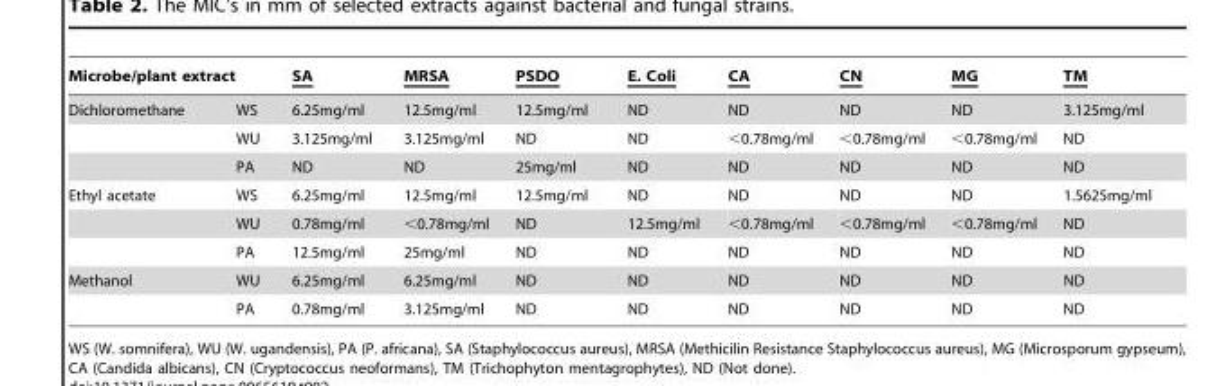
<table><thead><tr><td colspan="2">Microbe/plant extract</td><td rowspan="2">SA 6.25mg/ml</td><td rowspan="2">MRSA 12.5mg/ml</td><td rowspan="2">PSDO 12.5mg/ml</td><td rowspan="2">E. Coli ND</td><td rowspan="2">CA ND</td><td rowspan="2">CN ND</td><td rowspan="2">MG ND</td><td rowspan="2">TM 3.125mg/ml</td></tr><tr><td>Dichloromethane</td><td>WS</td></tr></thead><tbody><tr><td></td><td>WU</td><td>3.125mg/ml</td><td>3.125mg/ml</td><td>ND</td><td>ND</td><td>&lt;0.78mg/ml</td><td>&lt;0.78mg/ml</td><td>&lt;0.78mg/ml</td><td>ND</td></tr><tr><td></td><td>PA</td><td>ND</td><td>ND</td><td>25mg/ml</td><td>ND</td><td>ND</td><td>ND</td><td>ND</td><td>ND</td></tr><tr><td rowspan="3">Ethyl acetate</td><td>WS</td><td>6.25mg/ml</td><td>12.5mg/ml</td><td>12.5mg/ml</td><td>ND</td><td>ND</td><td>ND</td><td>ND</td><td>1.5625mg/ml</td></tr><tr><td>WU</td><td>0.78mg/ml</td><td>&lt;0.78mg/ml</td><td>ND</td><td>12.5mg/ml</td><td>&lt;0.78mg/ml</td><td>&lt;0.78mg/ml</td><td>&lt;0.78mg/ml</td><td>ND</td></tr><tr><td>PA</td><td>12.5mg/ml</td><td>25mg/ml</td><td>ND</td><td>ND</td><td>ND</td><td>ND</td><td>ND</td><td>ND</td></tr><tr><td rowspan="2">Methanol</td><td>WU</td><td>6.25mg/ml</td><td>6.25mg/ml</td><td>ND</td><td>ND</td><td>ND</td><td>ND</td><td>ND</td><td>ND</td></tr><tr><td>PA</td><td>0.78mg/ml</td><td>3.125mg/ml</td><td>ND</td><td>ND</td><td>ND</td><td>ND</td><td>ND</td><td>ND</td></tr></tbody></table>